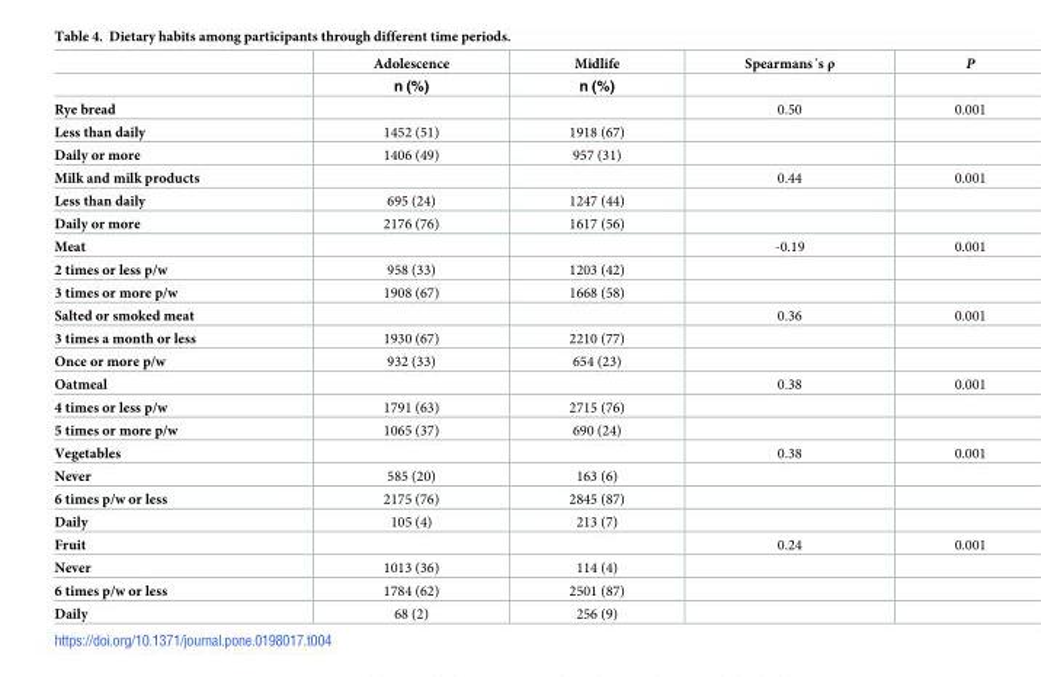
<table><thead><tr><td rowspan="2"></td><td rowspan="2">Adolescence n (%)</td><td rowspan="2">Midlife n (%)</td><td rowspan="2">Spearmans´s ρ</td><td rowspan="2">P</td></tr><tr></tr></thead><tbody><tr><td>Rye bread</td><td></td><td></td><td>0.50</td><td>0.001</td></tr><tr><td>Less than daily</td><td>1452 (51)</td><td>1918 (67)</td><td></td><td></td></tr><tr><td>Daily or more</td><td>1406 (49)</td><td>957 (31)</td><td></td><td></td></tr><tr><td>Milk and milk products</td><td></td><td></td><td>0.44</td><td>0.001</td></tr><tr><td>Less than daily</td><td>695 (24)</td><td>1247 (44)</td><td></td><td></td></tr><tr><td>Daily or more</td><td>2176 (76)</td><td>1617 (56)</td><td></td><td></td></tr><tr><td>Meat</td><td></td><td></td><td>-0.19</td><td>0.001</td></tr><tr><td>2 times or less p/w</td><td>958 (33)</td><td>1203 (42)</td><td></td><td></td></tr><tr><td>3 times or more p/w</td><td>1908 (67)</td><td>1668 (58)</td><td></td><td></td></tr><tr><td>Salted or smoked meat</td><td></td><td></td><td>0.36</td><td>0.001</td></tr><tr><td>3 times a month or less</td><td>1930 (67)</td><td>2210 (77)</td><td></td><td></td></tr><tr><td>Once or more p/w</td><td>932 (33)</td><td>654 (23)</td><td></td><td></td></tr><tr><td>Oatmeal</td><td></td><td></td><td>0.38</td><td>0.001</td></tr><tr><td>4 times or less p/w</td><td>1791 (63)</td><td>2715 (76)</td><td></td><td></td></tr><tr><td>5 times or more p/w</td><td>1065 (37)</td><td>690 (24)</td><td></td><td></td></tr><tr><td>Vegetables</td><td></td><td></td><td>0.38</td><td>0.001</td></tr><tr><td>Never</td><td>585 (20)</td><td>163 (6)</td><td></td><td></td></tr><tr><td>6 times p/w or less</td><td>2175 (76)</td><td>2845 (87)</td><td></td><td></td></tr><tr><td>Daily</td><td>105 (4)</td><td>213 (7)</td><td></td><td></td></tr><tr><td>Fruit</td><td></td><td></td><td>0.24</td><td>0.001</td></tr><tr><td>Never</td><td>1013 (36)</td><td>114 (4)</td><td></td><td></td></tr><tr><td>6 times p/w or less</td><td>1784 (62)</td><td>2501 (87)</td><td></td><td></td></tr><tr><td>Daily</td><td>68 (2)</td><td>256 (9)</td><td></td><td></td></tr></tbody></table>